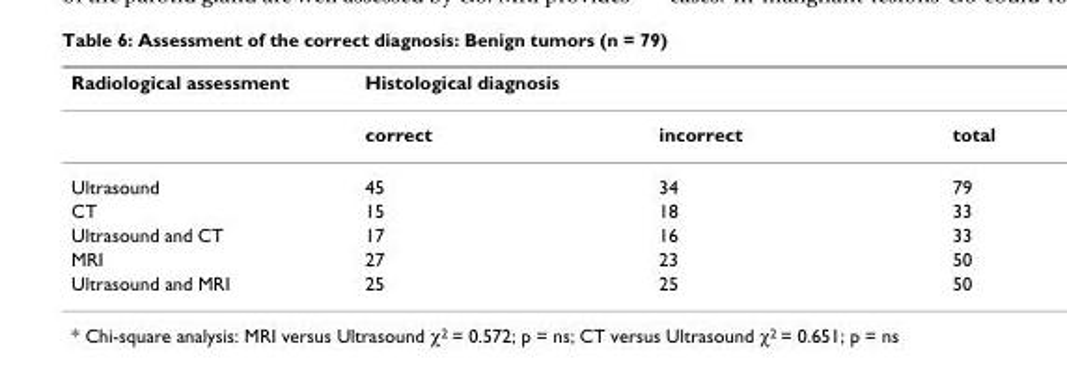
<table><thead><tr><td rowspan="2">Radiological assessment</td><td colspan="3">Histological diagnosis</td></tr><tr><td>correct</td><td>incorrect</td><td>total</td></tr></thead><tbody><tr><td>Ultrasound</td><td>45</td><td>34</td><td>79</td></tr><tr><td>CT</td><td>15</td><td>18</td><td>33</td></tr><tr><td>Ultrasound and CT</td><td>17</td><td>16</td><td>33</td></tr><tr><td>MRI</td><td>27</td><td>23</td><td>50</td></tr><tr><td>Ultrasound and MRI</td><td>25</td><td>25</td><td>50</td></tr></tbody></table>